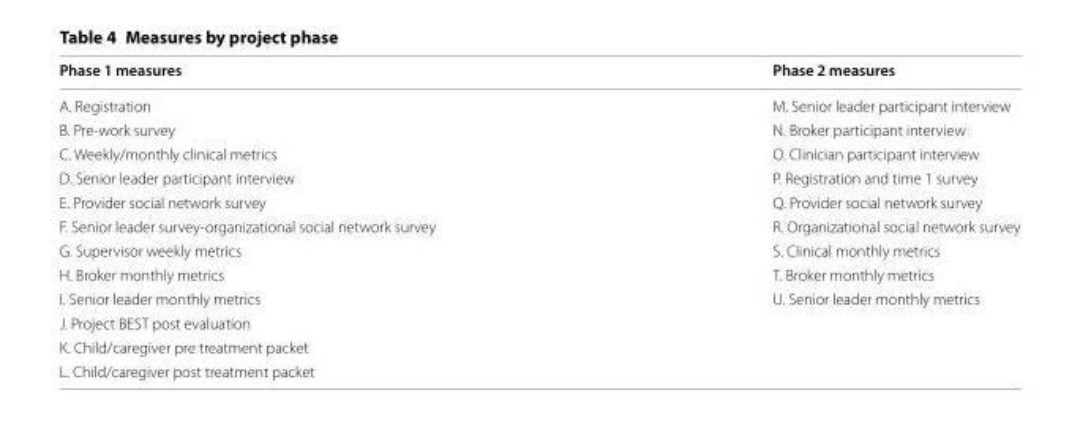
<table><thead><tr><td>Phase 1 measures</td><td>Phase 2 measures</td></tr></thead><tbody><tr><td>A. Registration</td><td>M. Senior leader participant interview</td></tr><tr><td>B. Pre-work survey</td><td>N. Broker participant interview</td></tr><tr><td>C. Weekly/monthly clinical metrics</td><td>O. Clinician participant interview</td></tr><tr><td>D. Senior leader participant interview</td><td>P. Registration and time 1 survey</td></tr><tr><td>E. Provider social network survey</td><td>Q. Provider social network survey</td></tr><tr><td>F. Senior leader survey-organizational social network survey</td><td>R. Organizational social network survey</td></tr><tr><td>G. Supervisor weekly metrics</td><td>S. Clinical monthly metrics</td></tr><tr><td>H. Broker monthly metrics</td><td>T. Broker monthly metrics</td></tr><tr><td>I. Senior leader monthly metrics</td><td>U. Senior leader monthly metrics</td></tr><tr><td>J. Project BEST post evaluation</td><td rowspan="3"></td></tr><tr><td>K. Child/caregiver pre treatment packet</td></tr><tr><td>L. Child/caregiver post treatment packet</td></tr></tbody></table>